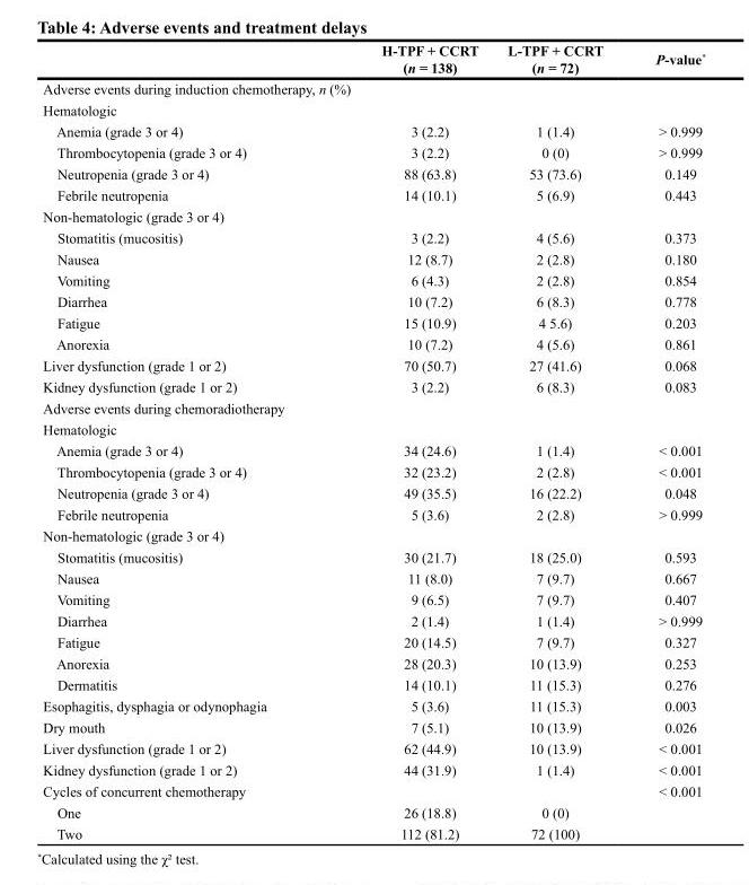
<table><thead><tr><td></td><td>H-TPF + CCRT (n = 138)</td><td>L-TPF + CCRT (n = 72)</td><td>P-value*</td></tr></thead><tbody><tr><td colspan="4">Adverse events during induction chemotherapy, n (%)</td></tr><tr><td colspan="4">Hematologic</td></tr><tr><td>Anemia (grade 3 or 4)</td><td>3 (2.2)</td><td>1 (1.4)</td><td>&gt; 0.999</td></tr><tr><td>Thrombocytopenia (grade 3 or 4)</td><td>3 (2.2)</td><td>0 (0)</td><td>&gt; 0.999</td></tr><tr><td>Neutropenia (grade 3 or 4)</td><td>88 (63.8)</td><td>53 (73.6)</td><td>0.149</td></tr><tr><td>Febrile neutropenia</td><td>14 (10.1)</td><td>5 (6.9)</td><td>0.443</td></tr><tr><td colspan="4">Non-hematologic (grade 3 or 4)</td></tr><tr><td>Stomatitis (mucositis)</td><td>3 (2.2)</td><td>4 (5.6)</td><td>0.373</td></tr><tr><td>Nausea</td><td>12 (8.7)</td><td>2 (2.8)</td><td>0.180</td></tr><tr><td>Vomiting</td><td>6 (4.3)</td><td>2 (2.8)</td><td>0.854</td></tr><tr><td>Diarrhea</td><td>10 (7.2)</td><td>6 (8.3)</td><td>0.778</td></tr><tr><td>Fatigue</td><td>15 (10.9)</td><td>4 5.6)</td><td>0.203</td></tr><tr><td>Anorexia</td><td>10 (7.2)</td><td>4 (5.6)</td><td>0.861</td></tr><tr><td>Liver dysfunction (grade 1 or 2)</td><td>70 (50.7)</td><td>27 (41.6)</td><td>0.068</td></tr><tr><td>Kidney dysfunction (grade 1 or 2)</td><td>3 (2.2)</td><td>6 (8.3)</td><td>0.083</td></tr><tr><td colspan="4">Adverse events during chemoradiotherapy</td></tr><tr><td colspan="4">Hematologic</td></tr><tr><td>Anemia (grade 3 or 4)</td><td>34 (24.6)</td><td>1 (1.4)</td><td>&lt; 0.001</td></tr><tr><td>Thrombocytopenia (grade 3 or 4)</td><td>32 (23.2)</td><td>2 (2.8)</td><td>&lt; 0.001</td></tr><tr><td>Neutropenia (grade 3 or 4)</td><td>49 (35.5)</td><td>16 (22.2)</td><td>0.048</td></tr><tr><td>Febrile neutropenia</td><td>5 (3.6)</td><td>2 (2.8)</td><td>&gt; 0.999</td></tr><tr><td colspan="4">Non-hematologic (grade 3 or 4)</td></tr><tr><td>Stomatitis (mucositis)</td><td>30 (21.7)</td><td>18 (25.0)</td><td>0.593</td></tr><tr><td>Nausea</td><td>11 (8.0)</td><td>7 (9.7)</td><td>0.667</td></tr><tr><td>Vomiting</td><td>9 (6.5)</td><td>7 (9.7)</td><td>0.407</td></tr><tr><td>Diarrhea</td><td>2 (1.4)</td><td>1 (1.4)</td><td>&gt; 0.999</td></tr><tr><td>Fatigue</td><td>20 (14.5)</td><td>7 (9.7)</td><td>0.327</td></tr><tr><td>Anorexia</td><td>28 (20.3)</td><td>10 (13.9)</td><td>0.253</td></tr><tr><td>Dermatitis</td><td>14 (10.1)</td><td>11 (15.3)</td><td>0.276</td></tr><tr><td>Esophagitis, dysphagia or odynophagia</td><td>5 (3.6)</td><td>11 (15.3)</td><td>0.003</td></tr><tr><td>Dry mouth</td><td>7 (5.1)</td><td>10 (13.9)</td><td>0.026</td></tr><tr><td>Liver dysfunction (grade 1 or 2)</td><td>62 (44.9)</td><td>10 (13.9)</td><td>&lt; 0.001</td></tr><tr><td>Kidney dysfunction (grade 1 or 2)</td><td>44 (31.9)</td><td>1 (1.4)</td><td>&lt; 0.001</td></tr><tr><td>Cycles of concurrent chemotherapy</td><td></td><td></td><td>&lt; 0.001</td></tr><tr><td>One</td><td>26 (18.8)</td><td>0 (0)</td><td></td></tr><tr><td>Two</td><td>112 (81.2)</td><td>72 (100)</td><td></td></tr></tbody></table>